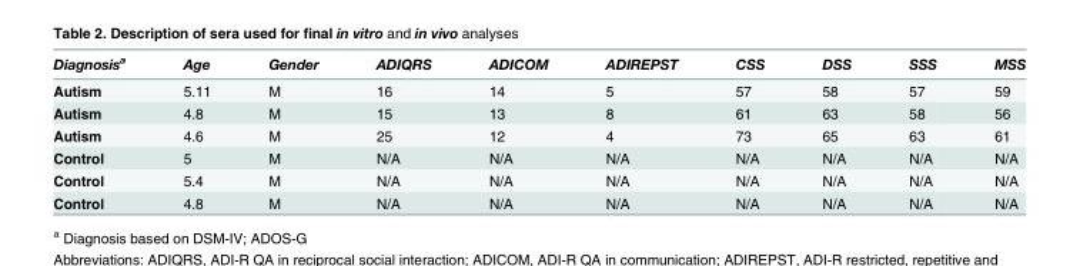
<table><thead><tr><td>Diagnosis<sup>a</sup></td><td>Age</td><td>Gender</td><td>ADIQRS</td><td>ADICOM</td><td>ADIREPST</td><td>CSS</td><td>DSS</td><td>SSS</td><td>MSS</td></tr></thead><tbody><tr><td>Autism</td><td>5.11</td><td>M</td><td>16</td><td>14</td><td>5</td><td>57</td><td>58</td><td>57</td><td>59</td></tr><tr><td>Autism</td><td>4.8</td><td>M</td><td>15</td><td>13</td><td>8</td><td>61</td><td>63</td><td>58</td><td>56</td></tr><tr><td>Autism</td><td>4.6</td><td>M</td><td>25</td><td>12</td><td>4</td><td>73</td><td>65</td><td>63</td><td>61</td></tr><tr><td>Control</td><td>5</td><td>M</td><td>N/A</td><td>N/A</td><td>N/A</td><td>N/A</td><td>N/A</td><td>N/A</td><td>N/A</td></tr><tr><td>Control</td><td>5.4</td><td>M</td><td>N/A</td><td>N/A</td><td>N/A</td><td>N/A</td><td>N/A</td><td>N/A</td><td>N/A</td></tr><tr><td>Control</td><td>4.8</td><td>M</td><td>N/A</td><td>N/A</td><td>N/A</td><td>N/A</td><td>N/A</td><td>N/A</td><td>N/A</td></tr></tbody></table>